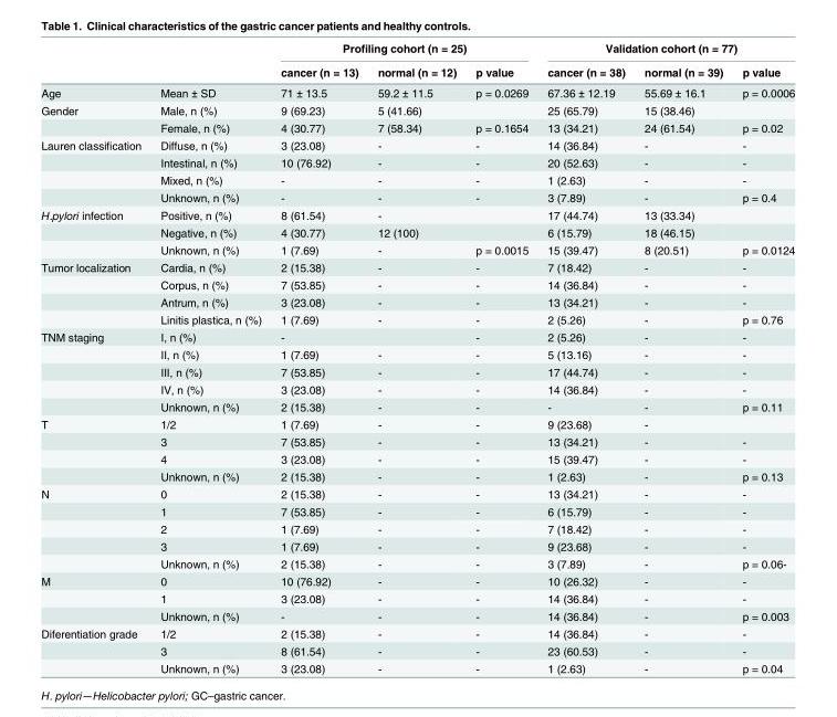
<table><thead><tr><td rowspan="2"></td><td rowspan="2"></td><td colspan="3">Profiling cohort (n = 25)</td><td colspan="3">Validation cohort (n = 77)</td></tr><tr><td>cancer (n = 13)</td><td>normal (n = 12)</td><td>p value</td><td>cancer (n = 38)</td><td>normal (n = 39)</td><td>p value</td></tr></thead><tbody><tr><td>Age</td><td>Mean ± SD</td><td>71 ± 13.5</td><td>59.2 ± 11.5</td><td>p = 0.0269</td><td>67.36 ± 12.19</td><td>55.69 ± 16.1</td><td>p = 0.0006</td></tr><tr><td rowspan="2">Gender</td><td>Male, n (%)</td><td>9 (69.23)</td><td>5 (41.66)</td><td></td><td>25 (65.79)</td><td>15 (38.46)</td><td></td></tr><tr><td>Female, n (%)</td><td>4 (30.77)</td><td>7 (58.34)</td><td>p = 0.1654</td><td>13 (34.21)</td><td>24 (61.54)</td><td>p = 0.02</td></tr><tr><td rowspan="4">Lauren classification</td><td>Diffuse, n (%)</td><td>3 (23.08)</td><td>-</td><td>-</td><td>14 (36.84)</td><td>-</td><td>-</td></tr><tr><td>Intestinal, n (%)</td><td>10 (76.92)</td><td>-</td><td>-</td><td>20 (52.63)</td><td>-</td><td>-</td></tr><tr><td>Mixed, n (%)</td><td>-</td><td>-</td><td>-</td><td>1 (2.63)</td><td>-</td><td>-</td></tr><tr><td>Unknown, n (%)</td><td>-</td><td>-</td><td>-</td><td>3 (7.89)</td><td>-</td><td>p = 0.4</td></tr><tr><td rowspan="3">H.pylori infection</td><td>Positive, n (%)</td><td>8 (61.54)</td><td>-</td><td></td><td>17 (44.74)</td><td>13 (33.34)</td><td></td></tr><tr><td>Negative, n (%)</td><td>4 (30.77)</td><td>12 (100)</td><td></td><td>6 (15.79)</td><td>18 (46.15)</td><td></td></tr><tr><td>Unknown, n (%)</td><td>1 (7.69)</td><td>-</td><td>p = 0.0015</td><td>15 (39.47)</td><td>8 (20.51)</td><td>p = 0.0124</td></tr><tr><td rowspan="4">Tumor localization</td><td>Cardia, n (%)</td><td>2 (15.38)</td><td>-</td><td>-</td><td>7 (18.42)</td><td>-</td><td>-</td></tr><tr><td>Corpus, n (%)</td><td>7 (53.85)</td><td>-</td><td>-</td><td>14 (36.84)</td><td>-</td><td>-</td></tr><tr><td>Antrum, n (%)</td><td>3 (23.08)</td><td>-</td><td>-</td><td>13 (34.21)</td><td>-</td><td>-</td></tr><tr><td>Linitis plastica, n (%)</td><td>1 (7.69)</td><td>-</td><td>-</td><td>2 (5.26)</td><td>-</td><td>p = 0.76</td></tr><tr><td rowspan="5">TNM staging</td><td>I, n (%)</td><td>-</td><td></td><td>-</td><td>2 (5.26)</td><td>-</td><td>-</td></tr><tr><td>II, n (%)</td><td>1 (7.69)</td><td>-</td><td>-</td><td>5 (13.16)</td><td>-</td><td>-</td></tr><tr><td>III, n (%)</td><td>7 (53.85)</td><td>-</td><td>-</td><td>17 (44.74)</td><td>-</td><td>-</td></tr><tr><td>IV, n (%)</td><td>3 (23.08)</td><td>-</td><td>-</td><td>14 (36.84)</td><td>-</td><td>-</td></tr><tr><td>Unknown, n (%)</td><td>2 (15.38)</td><td>-</td><td>-</td><td>-</td><td>-</td><td>p = 0.11</td></tr><tr><td rowspan="4">T</td><td>1/2</td><td>1 (7.69)</td><td>-</td><td>-</td><td>9 (23.68)</td><td>-</td><td></td></tr><tr><td>3</td><td>7 (53.85)</td><td>-</td><td>-</td><td>13 (34.21)</td><td>-</td><td>-</td></tr><tr><td>4</td><td>3 (23.08)</td><td>-</td><td>-</td><td>15 (39.47)</td><td>-</td><td>-</td></tr><tr><td>Unknown, n (%)</td><td>2 (15.38)</td><td>-</td><td>-</td><td>1 (2.63)</td><td>-</td><td>p = 0.13</td></tr><tr><td rowspan="5">N</td><td>0</td><td>2 (15.38)</td><td>-</td><td>-</td><td>13 (34.21)</td><td>-</td><td>-</td></tr><tr><td>1</td><td>7 (53.85)</td><td>-</td><td>-</td><td>6 (15.79)</td><td>-</td><td>-</td></tr><tr><td>2</td><td>1 (7.69)</td><td>-</td><td>-</td><td>7 (18.42)</td><td>-</td><td>-</td></tr><tr><td>3</td><td>1 (7.69)</td><td>-</td><td>-</td><td>9 (23.68)</td><td>-</td><td>-</td></tr><tr><td>Unknown, n (%)</td><td>2 (15.38)</td><td>-</td><td>-</td><td>3 (7.89)</td><td>-</td><td>p = 0.06-</td></tr><tr><td rowspan="3">M</td><td>0</td><td>10 (76.92)</td><td>-</td><td>-</td><td>10 (26.32)</td><td>-</td><td>-</td></tr><tr><td>1</td><td>3 (23.08)</td><td>-</td><td>-</td><td>14 (36.84)</td><td>-</td><td>-</td></tr><tr><td>Unknown, n (%)</td><td>-</td><td>-</td><td>-</td><td>14 (36.84)</td><td>-</td><td>p = 0.003</td></tr><tr><td rowspan="3">Diferentiation grade</td><td>1/2</td><td>2 (15.38)</td><td>-</td><td>-</td><td>14 (36.84)</td><td>-</td><td>-</td></tr><tr><td>3</td><td>8 (61.54)</td><td>-</td><td>-</td><td>23 (60.53)</td><td>-</td><td>-</td></tr><tr><td>Unknown, n (%)</td><td>3 (23.08)</td><td>-</td><td>-</td><td>1 (2.63)</td><td>-</td><td>p = 0.04</td></tr></tbody></table>